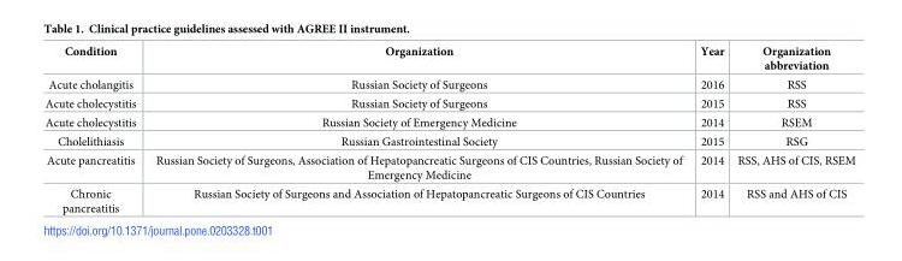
<table><thead><tr><td>Condition</td><td>Organization</td><td>Year</td><td>Organization abbreviation</td></tr></thead><tbody><tr><td>Acute cholangitis</td><td>Russian Society of Surgeons</td><td>2016</td><td>RSS</td></tr><tr><td>Acute cholecystitis</td><td>Russian Society of Surgeons</td><td>2015</td><td>RSS</td></tr><tr><td>Acute cholecystitis</td><td>Russian Society of Emergency Medicine</td><td>2014</td><td>RSEM</td></tr><tr><td>Cholelithiasis</td><td>Russian Gastrointestinal Society</td><td>2015</td><td>RSG</td></tr><tr><td>Acute pancreatitis</td><td>Russian Society of Surgeons, Association of Hepatopancreatic Surgeons of CIS Countries, Russian Society of Emergency Medicine</td><td>2014</td><td>RSS, AHS of CIS, RSEM</td></tr><tr><td>Chronic pancreatitis</td><td>Russian Society of Surgeons and Association of Hepatopancreatic Surgeons of CIS Countries</td><td>2014</td><td>RSS and AHS of CIS</td></tr></tbody></table>